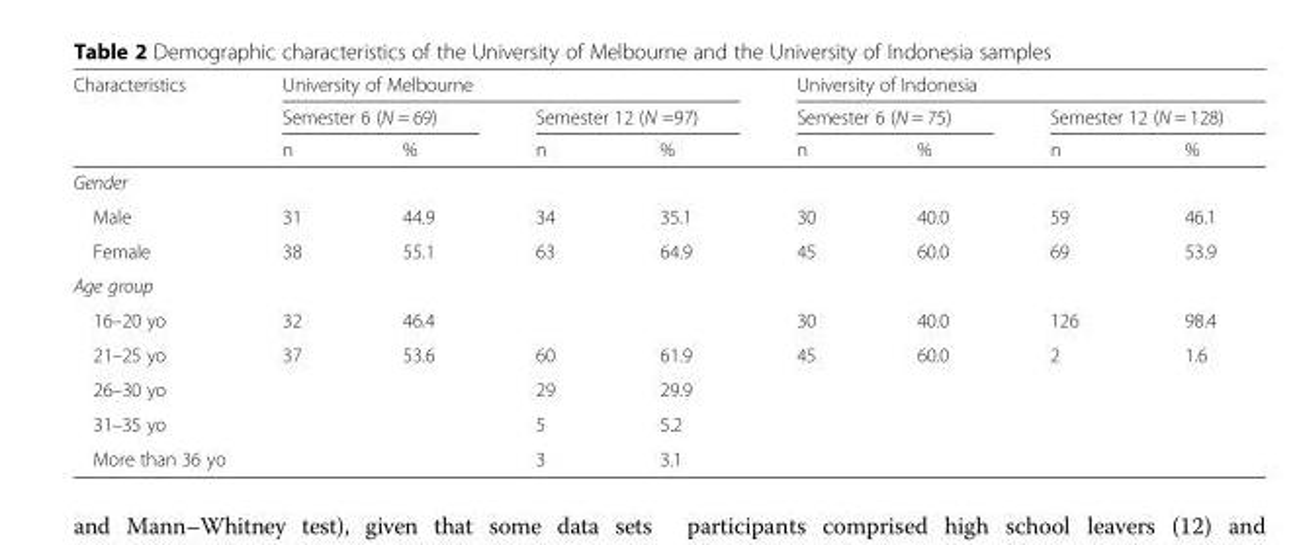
<table><thead><tr><td rowspan="3">Characteristics</td><td colspan="4">University of Melbourne</td><td colspan="4">University of Indonesia</td></tr><tr><td colspan="2">Semester 6 (N = 69)</td><td colspan="2">Semester 12 (N =97)</td><td colspan="2">Semester 6 (N = 75)</td><td colspan="2">Semester 12 (N = 128)</td></tr><tr><td>n</td><td>%</td><td>n</td><td>%</td><td>n</td><td>%</td><td>n</td><td>%</td></tr></thead><tbody><tr><td colspan="9">Gender</td></tr><tr><td>Male</td><td>31</td><td>44.9</td><td>34</td><td>35.1</td><td>30</td><td>40.0</td><td>59</td><td>46.1</td></tr><tr><td>Female</td><td>38</td><td>55.1</td><td>63</td><td>64.9</td><td>45</td><td>60.0</td><td>69</td><td>53.9</td></tr><tr><td colspan="9">Age group</td></tr><tr><td>16–20 yo</td><td>32</td><td>46.4</td><td></td><td></td><td>30</td><td>40.0</td><td>126</td><td>98.4</td></tr><tr><td>21–25 yo</td><td>37</td><td>53.6</td><td>60</td><td>61.9</td><td>45</td><td>60.0</td><td>2</td><td>1.6</td></tr><tr><td>26–30 yo</td><td></td><td></td><td>29</td><td>29.9</td><td></td><td></td><td></td><td></td></tr><tr><td>31–35 yo</td><td></td><td></td><td>5</td><td>5.2</td><td></td><td></td><td></td><td></td></tr><tr><td>More than 36 yo</td><td></td><td></td><td>3</td><td>3.1</td><td></td><td></td><td></td><td></td></tr></tbody></table>